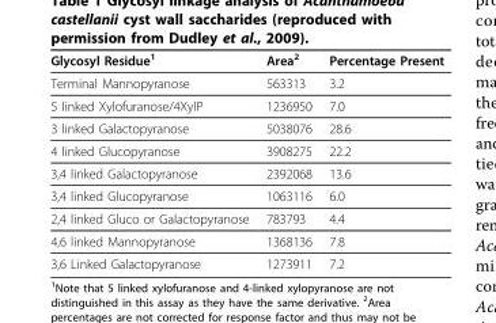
<table><thead><tr><td>Glycosyl Residue<sup>1</sup></td><td>Area<sup>2</sup></td><td>Percentage Present</td></tr></thead><tbody><tr><td>Terminal Mannopyranose</td><td>563313</td><td>3.2</td></tr><tr><td>5 linked Xylofuranose/4XylP</td><td>1236950</td><td>7.0</td></tr><tr><td>3 linked Galactopyranose</td><td>5038076</td><td>28.6</td></tr><tr><td>4 linked Glucopyranose</td><td>3908275</td><td>22.2</td></tr><tr><td>3,4 linked Galactopyranose</td><td>2392068</td><td>13.6</td></tr><tr><td>3,4 linked Glucopyranose</td><td>1063116</td><td>6.0</td></tr><tr><td>2,4 linked Gluco or Galactopyranose</td><td>783793</td><td>4.4</td></tr><tr><td>4,6 linked Mannopyranose</td><td>1368136</td><td>7.8</td></tr><tr><td>3,6 Linked Galactopyranose</td><td>1273911</td><td>7.2</td></tr></tbody></table>